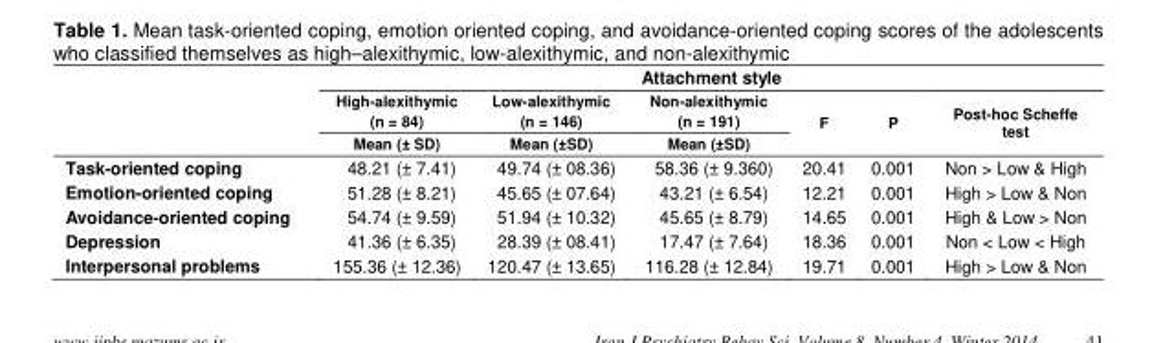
<table><thead><tr><td rowspan="3"></td><td colspan="6">Attachment style</td></tr><tr><td rowspan="2">High-alexithymic (n = 84) Mean (± SD)</td><td rowspan="2">Low-alexithymic (n = 146) Mean (±SD)</td><td rowspan="2">Non-alexithymic (n = 191) Mean (±SD)</td><td rowspan="2">F</td><td rowspan="2">P</td><td rowspan="2">Post-hoc Scheffe test</td></tr><tr></tr></thead><tbody><tr><td>Task-oriented coping</td><td>048.21 (± 7.41)</td><td>049.74 (± 08.36)</td><td>058.36 (± 9.360)</td><td>20.41</td><td>0.001</td><td>Non &gt; Low &amp; High</td></tr><tr><td>Emotion-oriented coping</td><td>051.28 (± 8.21)</td><td>045.65 (± 07.64)</td><td>043.21 (± 6.54)</td><td>12.21</td><td>0.001</td><td>High &gt; Low &amp; Non</td></tr><tr><td>Avoidance-oriented coping</td><td>054.74 (± 9.59)</td><td>051.94 (± 10.32)</td><td>045.65 (± 8.79)</td><td>14.65</td><td>0.001</td><td>High &amp; Low &gt; Non</td></tr><tr><td>Depression</td><td>041.36 (± 6.35)</td><td>028.39 (± 08.41)</td><td>017.47 (± 7.64)</td><td>18.36</td><td>0.001</td><td>Non &lt; Low &lt; High</td></tr><tr><td>Interpersonal problems</td><td>155.36 (± 12.36)</td><td>120.47 (± 13.65)</td><td>116.28 (± 12.84)</td><td>19.71</td><td>0.001</td><td>High &gt; Low &amp; Non</td></tr></tbody></table>